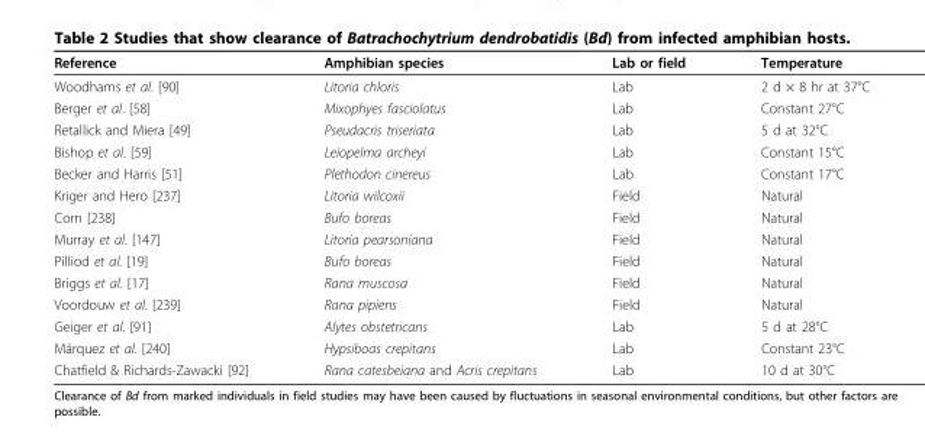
<table><thead><tr><td>Reference</td><td>Amphibian species</td><td>Lab or field</td><td>Temperature</td></tr></thead><tbody><tr><td>Woodhams et al. [90]</td><td>Litoria chloris</td><td>Lab</td><td>2 d × 8 hr at 37°C</td></tr><tr><td>Berger et al. [58]</td><td>Mixophyes fasciolatus</td><td>Lab</td><td>Constant 27°C</td></tr><tr><td>Retallick and Miera [49]</td><td>Pseudacris triseriata</td><td>Lab</td><td>5 d at 32°C</td></tr><tr><td>Bishop et al. [59]</td><td>Leiopelma archeyi</td><td>Lab</td><td>Constant 15°C</td></tr><tr><td>Becker and Harris [51]</td><td>Plethodon cinereus</td><td>Lab</td><td>Constant 17°C</td></tr><tr><td>Kriger and Hero [237]</td><td>Litoria wilcoxii</td><td>Field</td><td>Natural</td></tr><tr><td>Corn [238]</td><td>Bufo boreas</td><td>Field</td><td>Natural</td></tr><tr><td>Murray et al. [147]</td><td>Litoria pearsoniana</td><td>Field</td><td>Natural</td></tr><tr><td>Pilliod et al. [19]</td><td>Bufo boreas</td><td>Field</td><td>Natural</td></tr><tr><td>Briggs et al. [17]</td><td>Rana muscosa</td><td>Field</td><td>Natural</td></tr><tr><td>Voordouw et al. [239]</td><td>Rana pipiens</td><td>Field</td><td>Natural</td></tr><tr><td>Geiger et al. [91]</td><td>Alytes obstetricans</td><td>Lab</td><td>5 d at 28°C</td></tr><tr><td>Márquez et al. [240]</td><td>Hypsiboas crepitans</td><td>Lab</td><td>Constant 23°C</td></tr><tr><td>Chatfield &amp; Richards-Zawacki [92]</td><td>Rana catesbeiana and Acris crepitans</td><td>Lab</td><td>10 d at 30°C</td></tr></tbody></table>